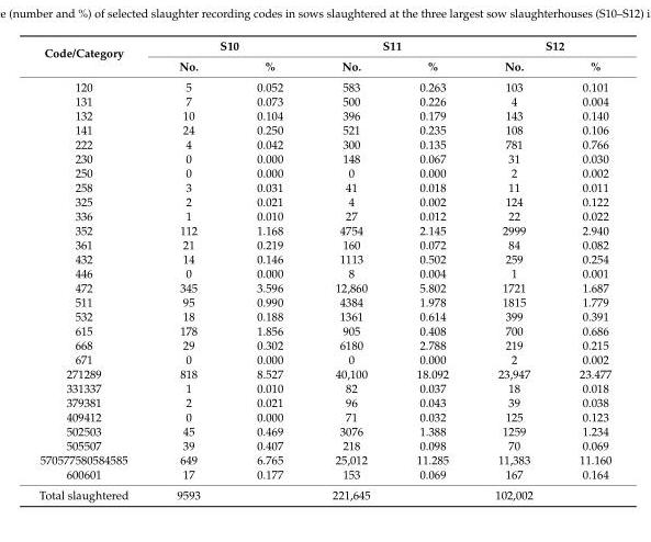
<table><thead><tr><td rowspan="2">Code/Category</td><td colspan="2">S10</td><td colspan="2">S11</td><td colspan="2">S12</td></tr><tr><td>No.</td><td>%</td><td>No.</td><td>%</td><td>No.</td><td>%</td></tr></thead><tbody><tr><td>120</td><td>5</td><td>0.052</td><td>583</td><td>0.263</td><td>103</td><td>0.101</td></tr><tr><td>131</td><td>7</td><td>0.073</td><td>500</td><td>0.226</td><td>4</td><td>0.004</td></tr><tr><td>132</td><td>10</td><td>0.104</td><td>396</td><td>0.179</td><td>143</td><td>0.140</td></tr><tr><td>141</td><td>24</td><td>0.250</td><td>521</td><td>0.235</td><td>108</td><td>0.106</td></tr><tr><td>222</td><td>4</td><td>0.042</td><td>300</td><td>0.135</td><td>781</td><td>0.766</td></tr><tr><td>230</td><td>0</td><td>0.000</td><td>148</td><td>0.067</td><td>31</td><td>0.030</td></tr><tr><td>250</td><td>0</td><td>0.000</td><td>0</td><td>0.000</td><td>2</td><td>0.002</td></tr><tr><td>258</td><td>3</td><td>0.031</td><td>41</td><td>0.018</td><td>11</td><td>0.011</td></tr><tr><td>325</td><td>2</td><td>0.021</td><td>4</td><td>0.002</td><td>124</td><td>0.122</td></tr><tr><td>336</td><td>1</td><td>0.010</td><td>27</td><td>0.012</td><td>22</td><td>0.022</td></tr><tr><td>352</td><td>112</td><td>1.168</td><td>4754</td><td>2.145</td><td>2999</td><td>2.940</td></tr><tr><td>361</td><td>21</td><td>0.219</td><td>160</td><td>0.072</td><td>84</td><td>0.082</td></tr><tr><td>432</td><td>14</td><td>0.146</td><td>1113</td><td>0.502</td><td>259</td><td>0.254</td></tr><tr><td>446</td><td>0</td><td>0.000</td><td>8</td><td>0.004</td><td>1</td><td>0.001</td></tr><tr><td>472</td><td>345</td><td>3.596</td><td>12,860</td><td>5.802</td><td>1721</td><td>1.687</td></tr><tr><td>511</td><td>95</td><td>0.990</td><td>4384</td><td>1.978</td><td>1815</td><td>1.779</td></tr><tr><td>532</td><td>18</td><td>0.188</td><td>1361</td><td>0.614</td><td>399</td><td>0.391</td></tr><tr><td>615</td><td>178</td><td>1.856</td><td>905</td><td>0.408</td><td>700</td><td>0.686</td></tr><tr><td>668</td><td>29</td><td>0.302</td><td>6180</td><td>2.788</td><td>219</td><td>0.215</td></tr><tr><td>671</td><td>0</td><td>0.000</td><td>0</td><td>0.000</td><td>2</td><td>0.002</td></tr><tr><td>271289</td><td>818</td><td>8.527</td><td>40,100</td><td>18.092</td><td>23,947</td><td>23.477</td></tr><tr><td>331337</td><td>1</td><td>0.010</td><td>82</td><td>0.037</td><td>18</td><td>0.018</td></tr><tr><td>379381</td><td>2</td><td>0.021</td><td>96</td><td>0.043</td><td>39</td><td>0.038</td></tr><tr><td>409412</td><td>0</td><td>0.000</td><td>71</td><td>0.032</td><td>125</td><td>0.123</td></tr><tr><td>502503</td><td>45</td><td>0.469</td><td>3076</td><td>1.388</td><td>1259</td><td>1.234</td></tr><tr><td>505507</td><td>39</td><td>0.407</td><td>218</td><td>0.098</td><td>70</td><td>0.069</td></tr><tr><td>570577580584585</td><td>649</td><td>6.765</td><td>25,012</td><td>11.285</td><td>11,383</td><td>11.160</td></tr><tr><td>600601</td><td>17</td><td>0.177</td><td>153</td><td>0.069</td><td>167</td><td>0.164</td></tr><tr><td>Total slaughtered</td><td>9593</td><td></td><td>221,645</td><td></td><td>102,002</td><td></td></tr></tbody></table>